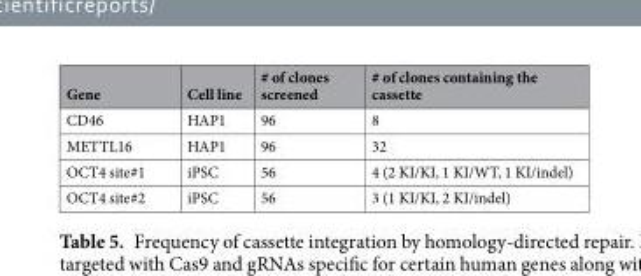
<table><thead><tr><td>Gene</td><td>Cell line</td><td># of clones screened</td><td># of clones containing the cassette</td></tr></thead><tbody><tr><td>CD46</td><td>HAP1</td><td>96</td><td>8</td></tr><tr><td>METTL16</td><td>HAP1</td><td>96</td><td>32</td></tr><tr><td>OCT4 site#1</td><td>iPSC</td><td>56</td><td>4 (2 KI/KI, 1 KI/WT, 1 KI/indel)</td></tr><tr><td>OCT4 site#2</td><td>iPSC</td><td>56</td><td>3 (1 KI/KI, 2 KI/indel)</td></tr></tbody></table>